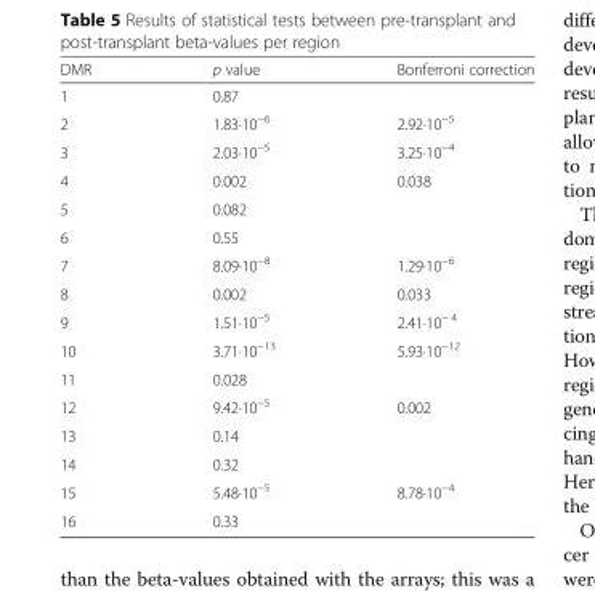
<table><thead><tr><td>DMR</td><td>p value</td><td>Bonferroni correction</td></tr></thead><tbody><tr><td>1</td><td>0.87</td><td></td></tr><tr><td>2</td><td>1.83·10<sup>−6</sup></td><td>2.92·10<sup>−5</sup></td></tr><tr><td>3</td><td>2.03·10<sup>−5</sup></td><td>3.25·10<sup>−4</sup></td></tr><tr><td>4</td><td>0.002</td><td>0.038</td></tr><tr><td>5</td><td>0.082</td><td></td></tr><tr><td>6</td><td>0.55</td><td></td></tr><tr><td>7</td><td>8.09·10<sup>−8</sup></td><td>1.29·10<sup>−6</sup></td></tr><tr><td>8</td><td>0.002</td><td>0.033</td></tr><tr><td>9</td><td>1.51·10<sup>−5</sup></td><td>2.41·10<sup>− 4</sup></td></tr><tr><td>10</td><td>3.71·10<sup>−13</sup></td><td>5.93·10<sup>−12</sup></td></tr><tr><td>11</td><td>0.028</td><td></td></tr><tr><td>12</td><td>9.42·10<sup>−5</sup></td><td>0.002</td></tr><tr><td>13</td><td>0.14</td><td></td></tr><tr><td>14</td><td>0.32</td><td></td></tr><tr><td>15</td><td>5.48·10<sup>−5</sup></td><td>8.78·10<sup>−4</sup></td></tr><tr><td>16</td><td>0.33</td><td></td></tr></tbody></table>